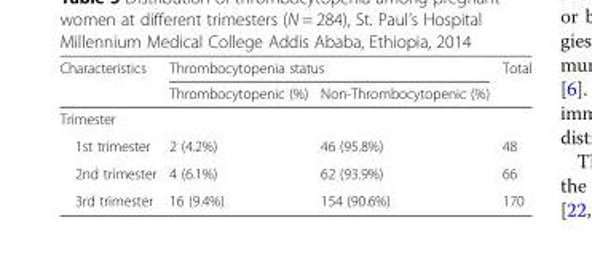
<table><thead><tr><td rowspan="2">Characteristics</td><td colspan="2">Thrombocytopenia status</td><td rowspan="2">Total</td></tr><tr><td>Thrombocytopenic (%)</td><td>Non-Thrombocytopenic (%)</td></tr></thead><tbody><tr><td colspan="4">Trimester</td></tr><tr><td>1st trimester</td><td>2 (4.2%)</td><td>46 (95.8%)</td><td>48</td></tr><tr><td>2nd trimester</td><td>4 (6.1%)</td><td>62 (93.9%)</td><td>66</td></tr><tr><td>3rd trimester</td><td>16 (9.4%)</td><td>154 (90.6%)</td><td>170</td></tr></tbody></table>